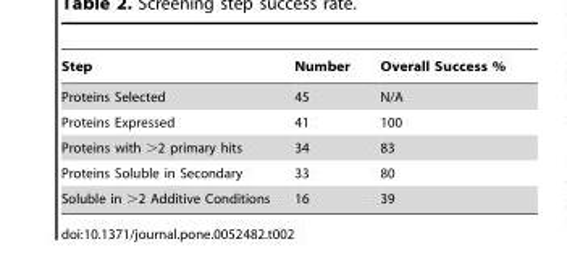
<table><thead><tr><td>Step</td><td>Number</td><td>Overall Success %</td></tr></thead><tbody><tr><td>Proteins Selected</td><td>45</td><td>N/A</td></tr><tr><td>Proteins Expressed</td><td>41</td><td>100</td></tr><tr><td>Proteins with &gt;2 primary hits</td><td>34</td><td>83</td></tr><tr><td>Proteins Soluble in Secondary</td><td>33</td><td>80</td></tr><tr><td>Soluble in &gt;2 Additive Conditions</td><td>16</td><td>39</td></tr></tbody></table>